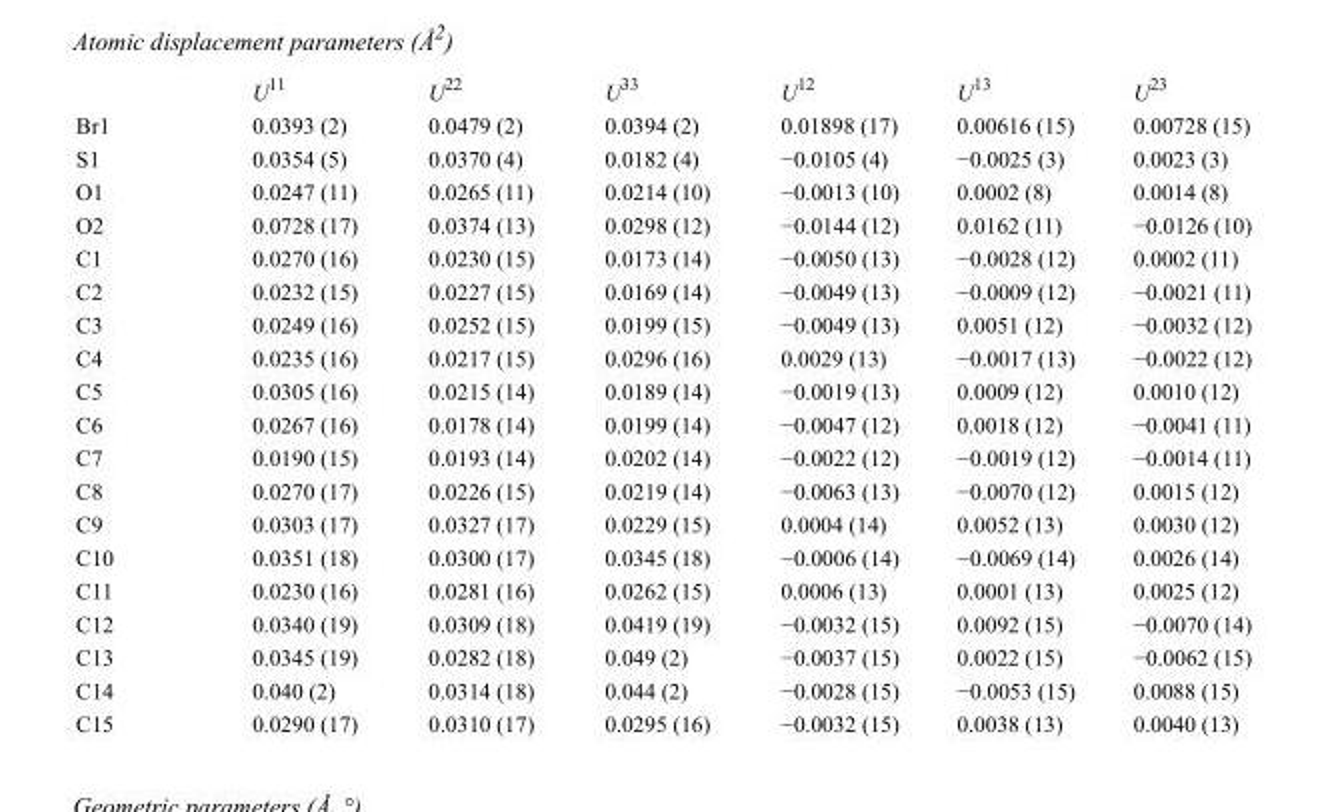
<table><thead><tr><td></td><td>U<sup>11</sup></td><td>U<sup>22</sup></td><td>U<sup>33</sup></td><td>U<sup>12</sup></td><td>U<sup>13</sup></td><td>U<sup>23</sup></td></tr></thead><tbody><tr><td>Br1</td><td>0.0393 (2)</td><td>0.0479 (2)</td><td>0.0394 (2)</td><td>0.01898 (17)</td><td>0.00616 (15)</td><td>0.00728 (15)</td></tr><tr><td>S1</td><td>0.0354 (5)</td><td>0.0370 (4)</td><td>0.0182 (4)</td><td>−0.0105 (4)</td><td>−0.0025 (3)</td><td>0.0023 (3)</td></tr><tr><td>O1</td><td>0.0247 (11)</td><td>0.0265 (11)</td><td>0.0214 (10)</td><td>−0.0013 (10)</td><td>0.0002 (8)</td><td>0.0014 (8)</td></tr><tr><td>O2</td><td>0.0728 (17)</td><td>0.0374 (13)</td><td>0.0298 (12)</td><td>−0.0144 (12)</td><td>0.0162 (11)</td><td>−0.0126 (10)</td></tr><tr><td>C1</td><td>0.0270 (16)</td><td>0.0230 (15)</td><td>0.0173 (14)</td><td>−0.0050 (13)</td><td>−0.0028 (12)</td><td>0.0002 (11)</td></tr><tr><td>C2</td><td>0.0232 (15)</td><td>0.0227 (15)</td><td>0.0169 (14)</td><td>−0.0049 (13)</td><td>−0.0009 (12)</td><td>−0.0021 (11)</td></tr><tr><td>C3</td><td>0.0249 (16)</td><td>0.0252 (15)</td><td>0.0199 (15)</td><td>−0.0049 (13)</td><td>0.0051 (12)</td><td>−0.0032 (12)</td></tr><tr><td>C4</td><td>0.0235 (16)</td><td>0.0217 (15)</td><td>0.0296 (16)</td><td>0.0029 (13)</td><td>−0.0017 (13)</td><td>−0.0022 (12)</td></tr><tr><td>C5</td><td>0.0305 (16)</td><td>0.0215 (14)</td><td>0.0189 (14)</td><td>−0.0019 (13)</td><td>0.0009 (12)</td><td>0.0010 (12)</td></tr><tr><td>C6</td><td>0.0267 (16)</td><td>0.0178 (14)</td><td>0.0199 (14)</td><td>−0.0047 (12)</td><td>0.0018 (12)</td><td>−0.0041 (11)</td></tr><tr><td>C7</td><td>0.0190 (15)</td><td>0.0193 (14)</td><td>0.0202 (14)</td><td>−0.0022 (12)</td><td>−0.0019 (12)</td><td>−0.0014 (11)</td></tr><tr><td>C8</td><td>0.0270 (17)</td><td>0.0226 (15)</td><td>0.0219 (14)</td><td>−0.0063 (13)</td><td>−0.0070 (12)</td><td>0.0015 (12)</td></tr><tr><td>C9</td><td>0.0303 (17)</td><td>0.0327 (17)</td><td>0.0229 (15)</td><td>0.0004 (14)</td><td>0.0052 (13)</td><td>0.0030 (12)</td></tr><tr><td>C10</td><td>0.0351 (18)</td><td>0.0300 (17)</td><td>0.0345 (18)</td><td>−0.0006 (14)</td><td>−0.0069 (14)</td><td>0.0026 (14)</td></tr><tr><td>C11</td><td>0.0230 (16)</td><td>0.0281 (16)</td><td>0.0262 (15)</td><td>0.0006 (13)</td><td>0.0001 (13)</td><td>0.0025 (12)</td></tr><tr><td>C12</td><td>0.0340 (19)</td><td>0.0309 (18)</td><td>0.0419 (19)</td><td>−0.0032 (15)</td><td>0.0092 (15)</td><td>−0.0070 (14)</td></tr><tr><td>C13</td><td>0.0345 (19)</td><td>0.0282 (18)</td><td>0.049 (2)</td><td>−0.0037 (15)</td><td>0.0022 (15)</td><td>−0.0062 (15)</td></tr><tr><td>C14</td><td>0.040 (2)</td><td>0.0314 (18)</td><td>0.044 (2)</td><td>−0.0028 (15)</td><td>−0.0053 (15)</td><td>0.0088 (15)</td></tr><tr><td>C15</td><td>0.0290 (17)</td><td>0.0310 (17)</td><td>0.0295 (16)</td><td>−0.0032 (15)</td><td>0.0038 (13)</td><td>0.0040 (13)</td></tr></tbody></table>